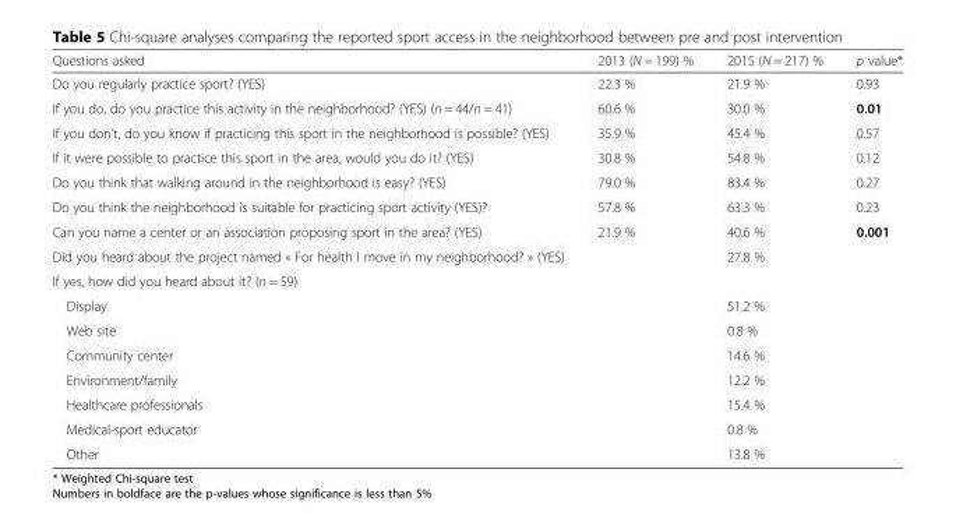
<table><thead><tr><td>Questions asked</td><td>2013 (N = 199) %</td><td>2015 (N = 217) %</td><td>p value*</td></tr></thead><tbody><tr><td>Do you regularly practice sport? (YES)</td><td>22.3 %</td><td>21.9 %</td><td>0.93</td></tr><tr><td>If you do, do you practice this activity in the neighborhood? (YES) (n = 44/n = 41)</td><td>60.6 %</td><td>30.0 %</td><td>0.01</td></tr><tr><td>If you don’t, do you know if practicing this sport in the neighborhood is possible? (YES)</td><td>35.9 %</td><td>45.4 %</td><td>0.57</td></tr><tr><td>If it were possible to practice this sport in the area, would you do it? (YES)</td><td>30.8 %</td><td>54.8 %</td><td>0.12</td></tr><tr><td>Do you think that walking around in the neighborhood is easy? (YES)</td><td>79.0 %</td><td>83.4 %</td><td>0.27</td></tr><tr><td>Do you think the neighborhood is suitable for practicing sport activity (YES)?</td><td>57.8 %</td><td>63.3 %</td><td>0.23</td></tr><tr><td>Can you name a center or an association proposing sport in the area? (YES)</td><td>21.9 %</td><td>40.6 %</td><td>0.001</td></tr><tr><td>Did you heard about the project named « For health I move in my neighborhood? » (YES)</td><td></td><td>27.8 %</td><td></td></tr><tr><td colspan="4">If yes, how did you heard about it? (n = 59)</td></tr><tr><td>Display</td><td></td><td>51.2 %</td><td></td></tr><tr><td>Web site</td><td></td><td>0.8 %</td><td></td></tr><tr><td>Community center</td><td></td><td>14.6 %</td><td></td></tr><tr><td>Environment/family</td><td></td><td>12.2 %</td><td></td></tr><tr><td>Healthcare professionals</td><td></td><td>15.4 %</td><td></td></tr><tr><td>Medical-sport educator</td><td></td><td>0.8 %</td><td></td></tr><tr><td>Other</td><td></td><td>13.8 %</td><td></td></tr></tbody></table>